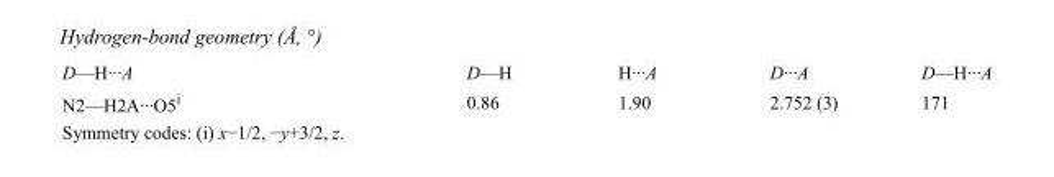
<table><tbody><tr><td>D—H···A</td><td>D—H</td><td>H···A</td><td>D···A</td><td>D—H···A</td></tr><tr><td>N2—H2A···O5<sup>i</sup></td><td>0.86</td><td>1.90</td><td>2.752 (3)</td><td>171</td></tr></tbody></table>